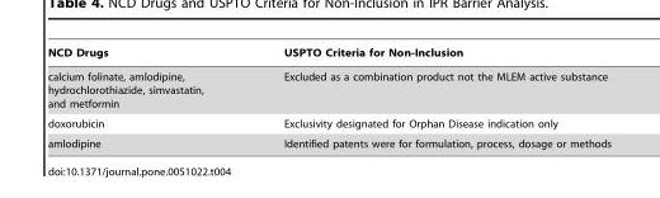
<table><thead><tr><td>NCD Drugs</td><td>USPTO Criteria for Non-Inclusion</td></tr></thead><tbody><tr><td>calcium folinate, amlodipine, hydrochlorothiazide, simvastatin, and metformin</td><td>Excluded as a combination product not the MLEM active substance</td></tr><tr><td>doxorubicin</td><td>Exclusivity designated for Orphan Disease indication only</td></tr><tr><td>amlodipine</td><td>Identified patents were for formulation, process, dosage or methods</td></tr></tbody></table>